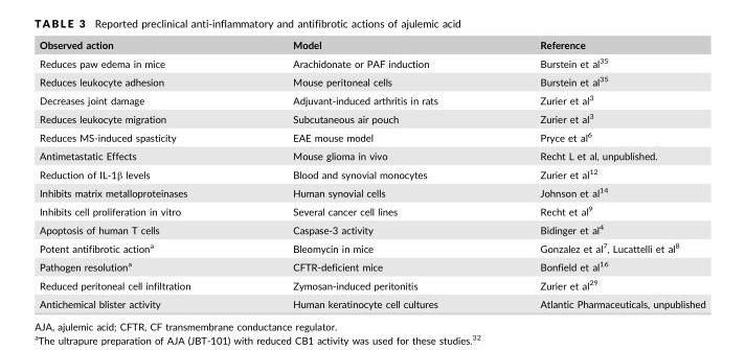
<table><thead><tr><td>Observed action</td><td>Model</td><td>Reference</td></tr></thead><tbody><tr><td>Reduces paw edema in mice</td><td>Arachidonate or PAF induction</td><td>Burstein et al<sup>35</sup></td></tr><tr><td>Reduces leukocyte adhesion</td><td>Mouse peritoneal cells</td><td>Burstein et al<sup>35</sup></td></tr><tr><td>Decreases joint damage</td><td>Adjuvant-induced arthritis in rats</td><td>Zurier et al<sup>3</sup></td></tr><tr><td>Reduces leukocyte migration</td><td>Subcutaneous air pouch</td><td>Zurier et al<sup>3</sup></td></tr><tr><td>Reduces MS-induced spasticity</td><td>EAE mouse model</td><td>Pryce et al<sup>6</sup></td></tr><tr><td>Antimetastatic Effects</td><td>Mouse glioma in vivo</td><td>Recht L et al, unpublished.</td></tr><tr><td>Reduction of IL-1β levels</td><td>Blood and synovial monocytes</td><td>Zurier et al<sup>12</sup></td></tr><tr><td>Inhibits matrix metalloproteinases</td><td>Human synovial cells</td><td>Johnson et al<sup>14</sup></td></tr><tr><td>Inhibits cell proliferation in vitro</td><td>Several cancer cell lines</td><td>Recht et al<sup>9</sup></td></tr><tr><td>Apoptosis of human T cells</td><td>Caspase-3 activity</td><td>Bidinger et al<sup>4</sup></td></tr><tr><td>Potent antifibrotic action<sup>a</sup></td><td>Bleomycin in mice</td><td>Gonzalez et al<sup>7</sup>, Lucattelli et al<sup>8</sup></td></tr><tr><td>Pathogen resolution<sup>a</sup></td><td>CFTR-deficient mice</td><td>Bonfield et al<sup>16</sup></td></tr><tr><td>Reduced peritoneal cell infiltration</td><td>Zymosan-induced peritonitis</td><td>Zurier et al<sup>29</sup></td></tr><tr><td>Antichemical blister activity</td><td>Human keratinocyte cell cultures</td><td>Atlantic Pharmaceuticals, unpublished</td></tr></tbody></table>